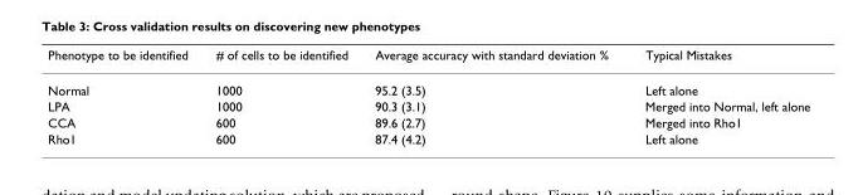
<table><thead><tr><td>Phenotype to be identified</td><td># of cells to be identified</td><td>Average accuracy with standard deviation %</td><td>Typical Mistakes</td></tr></thead><tbody><tr><td>Normal</td><td>1000</td><td>95.2 (3.5)</td><td>Left alone</td></tr><tr><td>LPA</td><td>1000</td><td>90.3 (3.1)</td><td>Merged into Normal, left alone</td></tr><tr><td>CCA</td><td>600</td><td>89.6 (2.7)</td><td>Merged into Rho1</td></tr><tr><td>Rho1</td><td>600</td><td>87.4 (4.2)</td><td>Left alone</td></tr></tbody></table>